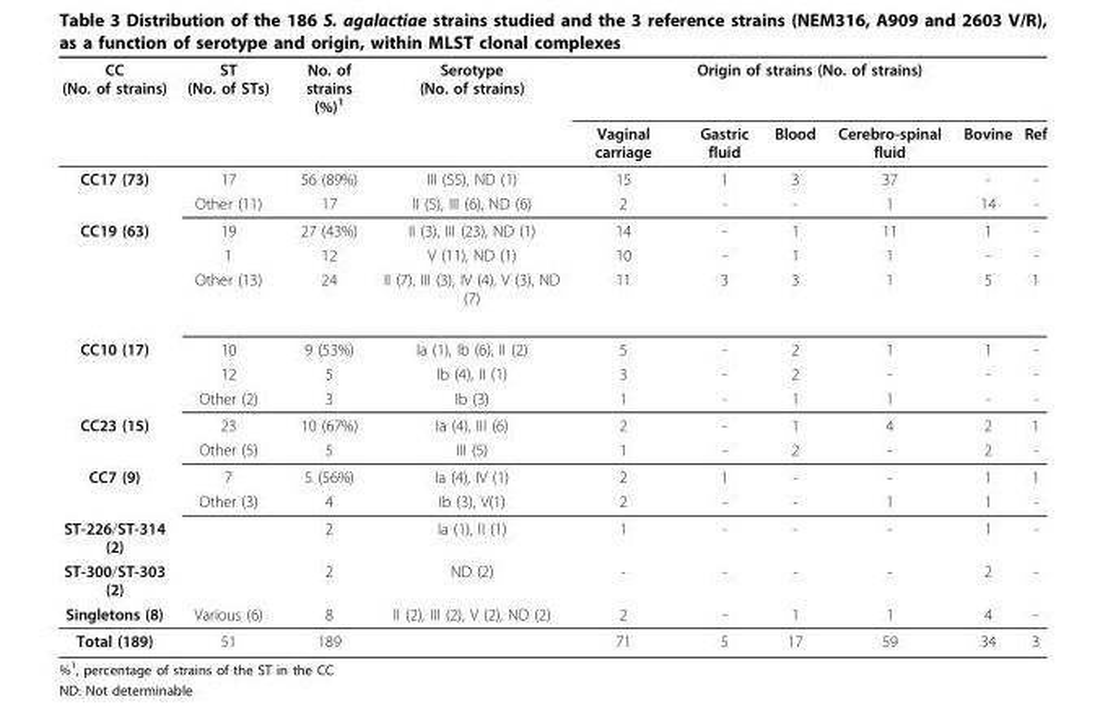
<table><thead><tr><td rowspan="2">CC (No. of strains)</td><td rowspan="2">ST (No. of STs)</td><td rowspan="2">No. of strains (%)<sup>1</sup></td><td rowspan="2">Serotype (No. of strains)</td><td colspan="6">Origin of strains (No. of strains)</td></tr><tr><td>Vaginal carriage</td><td>Gastric fluid</td><td>Blood</td><td>Cerebro-spinal fluid</td><td>Bovine</td><td>Ref</td></tr></thead><tbody><tr><td rowspan="2">CC17 (73)</td><td>17</td><td>56 (89%)</td><td>III (55), ND (1)</td><td>15</td><td>1</td><td>3</td><td>37</td><td>-</td><td>-</td></tr><tr><td>Other (11)</td><td>17</td><td>II (5), III (6), ND (6)</td><td>2</td><td>-</td><td>-</td><td>1</td><td>14</td><td>-</td></tr><tr><td rowspan="3">CC19 (63)</td><td>19</td><td>27 (43%)</td><td>II (3), III (23), ND (1)</td><td>14</td><td>-</td><td>1</td><td>11</td><td>1</td><td>-</td></tr><tr><td>1</td><td>12</td><td>V (11), ND (1)</td><td>10</td><td>-</td><td>1</td><td>1</td><td>-</td><td>-</td></tr><tr><td>Other (13)</td><td>24</td><td>II (7), III (3), IV (4), V (3), ND (7)</td><td>11</td><td>3</td><td>3</td><td>1</td><td>5</td><td>1</td></tr><tr><td rowspan="3">CC10 (17)</td><td>10</td><td>9 (53%)</td><td>Ia (1), Ib (6), II (2)</td><td>5</td><td>-</td><td>2</td><td>1</td><td>1</td><td>-</td></tr><tr><td>12</td><td>5</td><td>Ib (4), II (1)</td><td>3</td><td>-</td><td>2</td><td>-</td><td>-</td><td>-</td></tr><tr><td>Other (2)</td><td>3</td><td>Ib (3)</td><td>1</td><td>-</td><td>1</td><td>1</td><td>-</td><td>-</td></tr><tr><td rowspan="2">CC23 (15)</td><td>23</td><td>10 (67%)</td><td>Ia (4), III (6)</td><td>2</td><td>-</td><td>1</td><td>4</td><td>2</td><td>1</td></tr><tr><td>Other (5)</td><td>5</td><td>III (5)</td><td>1</td><td>-</td><td>2</td><td>-</td><td>2</td><td>-</td></tr><tr><td rowspan="2">CC7 (9)</td><td>7</td><td>5 (56%)</td><td>Ia (4), IV (1)</td><td>2</td><td>1</td><td>-</td><td>-</td><td>1</td><td>1</td></tr><tr><td>Other (3)</td><td>4</td><td>Ib (3), V(1)</td><td>2</td><td>-</td><td>-</td><td>1</td><td>1</td><td>-</td></tr><tr><td>ST-226/ST-314 (2)</td><td></td><td>2</td><td>Ia (1), II (1)</td><td>1</td><td>-</td><td>-</td><td>-</td><td>1</td><td>-</td></tr><tr><td>ST-300/ST-303 (2)</td><td></td><td>2</td><td>ND (2)</td><td>-</td><td>-</td><td>-</td><td>-</td><td>2</td><td>-</td></tr><tr><td>Singletons (8)</td><td>Various (6)</td><td>8</td><td>II (2), III (2), V (2), ND (2)</td><td>2</td><td>-</td><td>1</td><td>1</td><td>4</td><td>-</td></tr><tr><td>Total (189)</td><td>51</td><td>189</td><td></td><td>71</td><td>5</td><td>17</td><td>59</td><td>34</td><td>3</td></tr></tbody></table>